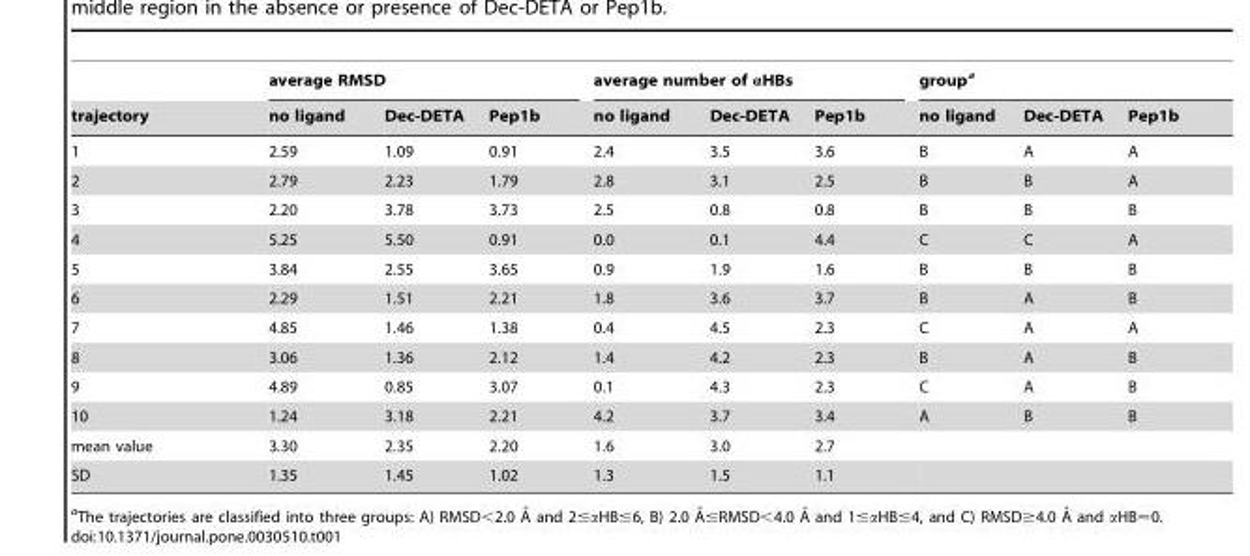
<table><thead><tr><td rowspan="2">trajectory</td><td colspan="3">average RMSD</td><td colspan="3">average number of αHBs</td><td colspan="3">group<sup>a</sup></td></tr><tr><td>no ligand</td><td>Dec-DETA</td><td>Pep1b</td><td>no ligand</td><td>Dec-DETA</td><td>Pep1b</td><td>no ligand</td><td>Dec-DETA</td><td>Pep1b</td></tr></thead><tbody><tr><td>1</td><td>2.59</td><td>1.09</td><td>0.91</td><td>2.4</td><td>3.5</td><td>3.6</td><td>B</td><td>A</td><td>A</td></tr><tr><td>2</td><td>2.79</td><td>2.23</td><td>1.79</td><td>2.8</td><td>3.1</td><td>2.5</td><td>B</td><td>B</td><td>A</td></tr><tr><td>3</td><td>2.20</td><td>3.78</td><td>3.73</td><td>2.5</td><td>0.8</td><td>0.8</td><td>B</td><td>B</td><td>B</td></tr><tr><td>4</td><td>5.25</td><td>5.50</td><td>0.91</td><td>0.0</td><td>0.1</td><td>4.4</td><td>C</td><td>C</td><td>A</td></tr><tr><td>5</td><td>3.84</td><td>2.55</td><td>3.65</td><td>0.9</td><td>1.9</td><td>1.6</td><td>B</td><td>B</td><td>B</td></tr><tr><td>6</td><td>2.29</td><td>1.51</td><td>2.21</td><td>1.8</td><td>3.6</td><td>3.7</td><td>B</td><td>A</td><td>B</td></tr><tr><td>7</td><td>4.85</td><td>1.46</td><td>1.38</td><td>0.4</td><td>4.5</td><td>2.3</td><td>C</td><td>A</td><td>A</td></tr><tr><td>8</td><td>3.06</td><td>1.36</td><td>2.12</td><td>1.4</td><td>4.2</td><td>2.3</td><td>B</td><td>A</td><td>B</td></tr><tr><td>9</td><td>4.89</td><td>0.85</td><td>3.07</td><td>0.1</td><td>4.3</td><td>2.3</td><td>C</td><td>A</td><td>B</td></tr><tr><td>10</td><td>1.24</td><td>3.18</td><td>2.21</td><td>4.2</td><td>3.7</td><td>3.4</td><td>A</td><td>B</td><td>B</td></tr><tr><td>mean value</td><td>3.30</td><td>2.35</td><td>2.20</td><td>1.6</td><td>3.0</td><td>2.7</td><td></td><td></td><td></td></tr><tr><td>SD</td><td>1.35</td><td>1.45</td><td>1.02</td><td>1.3</td><td>1.5</td><td>1.1</td><td></td><td></td><td></td></tr></tbody></table>